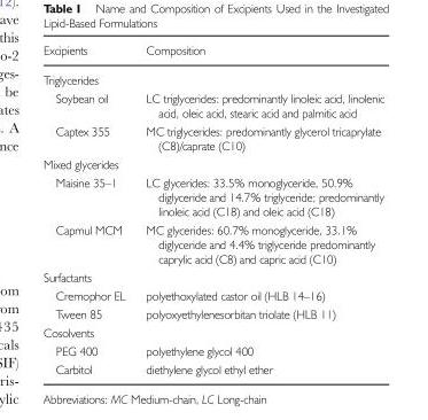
<table><thead><tr><td>Excipients</td><td>Composition</td></tr></thead><tbody><tr><td colspan="2">Triglycerides</td></tr><tr><td>Soybean oil</td><td>LC triglycerides: predominantly linoleic acid, linolenic acid, oleic acid, stearic acid and palmitic acid</td></tr><tr><td>Captex 355</td><td>MC triglycerides: predominantly glycerol tricaprylate (C8)/caprate (C10)</td></tr><tr><td colspan="2">Mixed glycerides</td></tr><tr><td>Maisine 35–1</td><td>LC glycerides: 33.5% monoglyceride, 50.9% diglyceride and 14.7% triglyceride; predominantly linoleic acid (C18) and oleic acid (C18)</td></tr><tr><td>Capmul MCM</td><td>MC glycerides: 60.7% monoglyceride, 33.1% diglyceride and 4.4% triglyceride predominantly caprylic acid (C8) and capric acid (C10)</td></tr><tr><td colspan="2">Surfactants</td></tr><tr><td>Cremophor EL</td><td>polyethoxylated castor oil (HLB 14–16)</td></tr><tr><td>Tween 85</td><td>polyoxyethylenesorbitan triolate (HLB 11)</td></tr><tr><td colspan="2">Cosolvents</td></tr><tr><td>PEG 400</td><td>polyethylene glycol 400</td></tr><tr><td>Carbitol</td><td>diethylene glycol ethyl ether</td></tr></tbody></table>